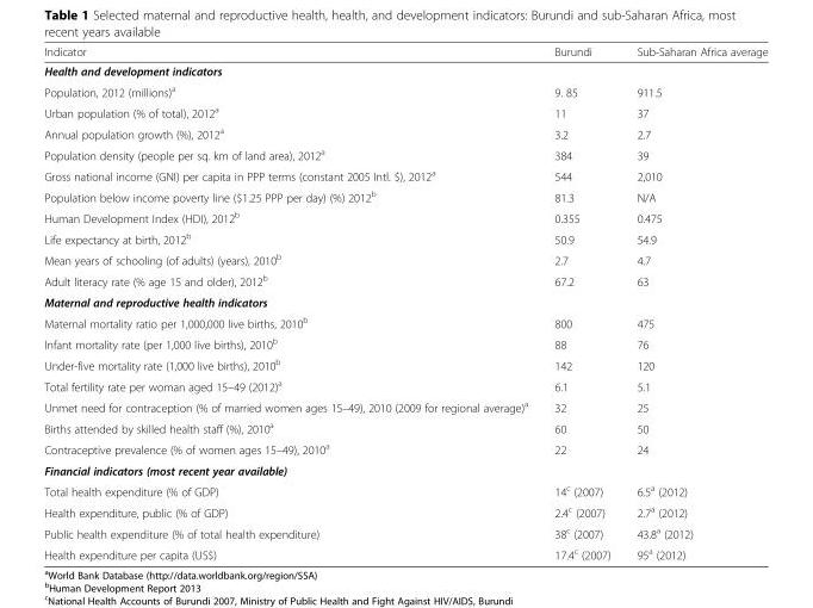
<table><thead><tr><td>Indicator</td><td>Burundi</td><td>Sub-Saharan Africa average</td></tr></thead><tbody><tr><td colspan="3">Health and development indicators</td></tr><tr><td>Population, 2012 (millions)<sup>a</sup></td><td>9. 85</td><td>911.5</td></tr><tr><td>Urban population (% of total), 2012<sup>a</sup></td><td>11</td><td>37</td></tr><tr><td>Annual population growth (%), 2012<sup>a</sup></td><td>3.2</td><td>2.7</td></tr><tr><td>Population density (people per sq. km of land area), 2012<sup>a</sup></td><td>384</td><td>39</td></tr><tr><td>Gross national income (GNI) per capita in PPP terms (constant 2005 Intl. $), 2012<sup>a</sup></td><td>544</td><td>2,010</td></tr><tr><td>Population below income poverty line ($1.25 PPP per day) (%) 2012<sup>b</sup></td><td>81.3</td><td>N/A</td></tr><tr><td>Human Development Index (HDI), 2012<sup>b</sup></td><td>0.355</td><td>0.475</td></tr><tr><td>Life expectancy at birth, 2012<sup>b</sup></td><td>50.9</td><td>54.9</td></tr><tr><td>Mean years of schooling (of adults) (years), 2010<sup>b</sup></td><td>2.7</td><td>4.7</td></tr><tr><td>Adult literacy rate (% age 15 and older), 2012<sup>b</sup></td><td>67.2</td><td>63</td></tr><tr><td colspan="3">Maternal and reproductive health indicators</td></tr><tr><td>Maternal mortality ratio per 1,000,000 live births, 2010<sup>b</sup></td><td>800</td><td>475</td></tr><tr><td>Infant mortality rate (per 1,000 live births), 2010<sup>b</sup></td><td>88</td><td>76</td></tr><tr><td>Under-five mortality rate (1,000 live births), 2010<sup>b</sup></td><td>142</td><td>120</td></tr><tr><td>Total fertility rate per woman aged 15–49 (2012)<sup>a</sup></td><td>6.1</td><td>5.1</td></tr><tr><td>Unmet need for contraception (% of married women ages 15–49), 2010 (2009 for regional average)<sup>a</sup></td><td>32</td><td>25</td></tr><tr><td>Births attended by skilled health staff (%), 2010<sup>a</sup></td><td>60</td><td>50</td></tr><tr><td>Contraceptive prevalence (% of women ages 15–49), 2010<sup>a</sup></td><td>22</td><td>24</td></tr><tr><td colspan="3">Financial indicators (most recent year available)</td></tr><tr><td>Total health expenditure (% of GDP)</td><td>14<sup>c</sup> (2007)</td><td>6.5<sup>a</sup> (2012)</td></tr><tr><td>Health expenditure, public (% of GDP)</td><td>2.4<sup>c</sup> (2007)</td><td>2.7<sup>a</sup> (2012)</td></tr><tr><td>Public health expenditure (% of total health expenditure)</td><td>38<sup>c</sup> (2007)</td><td>43.8<sup>a</sup> (2012)</td></tr><tr><td>Health expenditure per capita (US$)</td><td>17.4<sup>c</sup> (2007)</td><td>95<sup>a</sup> (2012)</td></tr></tbody></table>